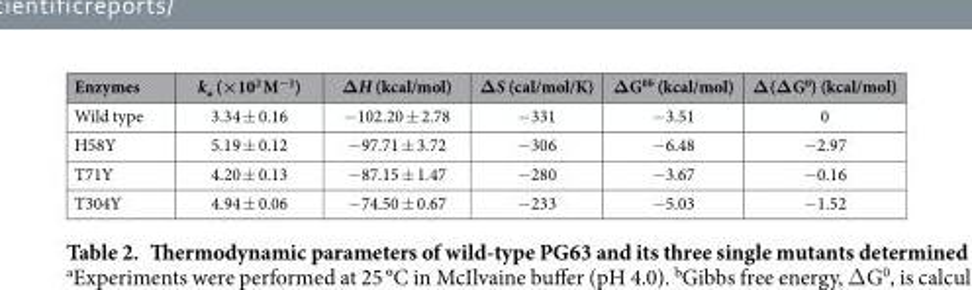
<table><thead><tr><td>Enzymes</td><td>k<sub>a</sub> (×10<sup>2</sup> M<sup>−1</sup>)</td><td>ΔH (kcal/mol)</td><td>ΔS (cal/mol/K)</td><td>ΔG<sup>0b</sup> (kcal/mol)</td><td>Δ(ΔG<sup>0</sup>) (kcal/mol)</td></tr></thead><tbody><tr><td>Wild type</td><td>3.34 ± 0.16</td><td>− 102.20 ± 2.78</td><td>− 331</td><td>− 3.51</td><td>0</td></tr><tr><td>H58Y</td><td>5.19 ± 0.12</td><td>− 97.71 ± 3.72</td><td>− 306</td><td>− 6.48</td><td>− 2.97</td></tr><tr><td>T71Y</td><td>4.20 ± 0.13</td><td>− 87.15 ± 1.47</td><td>− 280</td><td>− 3.67</td><td>− 0.16</td></tr><tr><td>T304Y</td><td>4.94 ± 0.06</td><td>− 74.50 ± 0.67</td><td>− 233</td><td>− 5.03</td><td>− 1.52</td></tr></tbody></table>